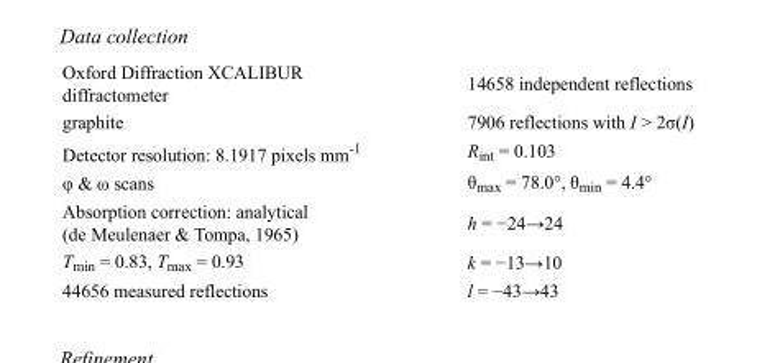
<table><tbody><tr><td>Oxford Diffraction XCALIBUR diffractometer</td><td>14658 independent reflections</td></tr><tr><td>graphite</td><td>7906 reflections with I &gt; 2σ(I)</td></tr><tr><td>Detector resolution: 8.1917 pixels mm<sup>-1</sup></td><td>R<sub>int</sub> = 0.103</td></tr><tr><td>φ &amp; ω scans</td><td>θ<sub>max</sub> = 78.0°, θ<sub>min</sub> = 4.4°</td></tr><tr><td>Absorption correction: analytical (de Meulenaer &amp; Tompa, 1965)</td><td>h = −24→24</td></tr><tr><td>T<sub>min</sub> = 0.83, T<sub>max</sub> = 0.93</td><td>k = −13→10</td></tr><tr><td>44656 measured reflections</td><td>l = −43→43</td></tr></tbody></table>